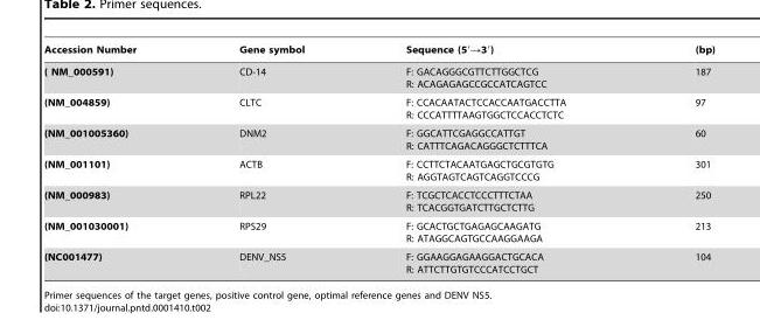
<table><thead><tr><td>Accession Number</td><td>Gene symbol</td><td>Sequence (5′→3′)</td><td>(bp)</td></tr></thead><tbody><tr><td>( NM_000591)</td><td>CD-14</td><td>F: GACAGGGCGTTCTTGGCTCG R: ACAGAGAGCCGCCATCAGTCC</td><td>187</td></tr><tr><td>(NM_004859)</td><td>CLTC</td><td>F: CCACAATACTCCACCAATGACCTTA R: CCCATTTTAAGTGGCTCCACCTCTC</td><td>97</td></tr><tr><td>(NM_001005360)</td><td>DNM2</td><td>F: GGCATTCGAGGCCATTGT R: CATTTCAGACAGGGCTCTTTCA</td><td>60</td></tr><tr><td>(NM_001101)</td><td>ACTB</td><td>F: CCTTCTACAATGAGCTGCGTGTG R: AGGTAGTCAGTCAGGTCCCG</td><td>301</td></tr><tr><td>(NM_000983)</td><td>RPL22</td><td>F: TCGCTCACCTCCCTTTCTAA R: TCACGGTGATCTTGCTCTTG</td><td>250</td></tr><tr><td>(NM_001030001)</td><td>RPS29</td><td>F: GCACTGCTGAGAGCAAGATG R: ATAGGCAGTGCCAAGGAAGA</td><td>213</td></tr><tr><td>(NC001477)</td><td>DENV_NS5</td><td>F: GGAAGGAGAAGGACTGCACA R: ATTCTTGTGTCCCATCCTGCT</td><td>104</td></tr></tbody></table>